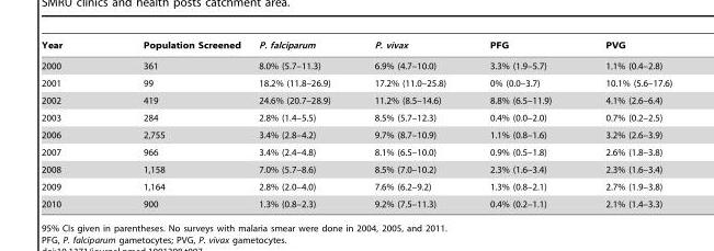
<table><thead><tr><td>Year</td><td>Population Screened</td><td>P. falciparum</td><td>P. vivax</td><td>PFG</td><td>PVG</td></tr></thead><tbody><tr><td>2000</td><td>361</td><td>8.0% (5.7–11.3)</td><td>6.9% (4.7–10.0)</td><td>3.3% (1.9–5.7)</td><td>1.1% (0.4–2.8)</td></tr><tr><td>2001</td><td>99</td><td>18.2% (11.8–26.9)</td><td>17.2% (11.0–25.8)</td><td>0% (0.0–3.7)</td><td>10.1% (5.6–17.6)</td></tr><tr><td>2002</td><td>419</td><td>24.6% (20.7–28.9)</td><td>11.2% (8.5–14.6)</td><td>8.8% (6.5–11.9)</td><td>4.1% (2.6–6.4)</td></tr><tr><td>2003</td><td>284</td><td>2.8% (1.4–5.5)</td><td>8.5% (5.7–12.3)</td><td>0.4% (0.0–2.0)</td><td>0.7% (0.2–2.5)</td></tr><tr><td>2006</td><td>2,755</td><td>3.4% (2.8–4.2)</td><td>9.7% (8.7–10.9)</td><td>1.1% (0.8–1.6)</td><td>3.2% (2.6–3.9)</td></tr><tr><td>2007</td><td>966</td><td>3.4% (2.4–4.8)</td><td>8.1% (6.5–10.0)</td><td>0.9% (0.5–1.8)</td><td>2.6% (1.8–3.8)</td></tr><tr><td>2008</td><td>1,158</td><td>7.0% (5.7–8.6)</td><td>8.5% (7.0–10.2)</td><td>2.3% (1.6–3.4)</td><td>2.3% (1.6–3.4)</td></tr><tr><td>2009</td><td>1,164</td><td>2.8% (2.0–4.0)</td><td>7.6% (6.2–9.2)</td><td>1.3% (0.8–2.1)</td><td>2.7% (1.9–3.8)</td></tr><tr><td>2010</td><td>900</td><td>1.3% (0.8–2.3)</td><td>9.2% (7.5–11.3)</td><td>0.4% (0.2–1.1)</td><td>2.1% (1.4–3.3)</td></tr></tbody></table>